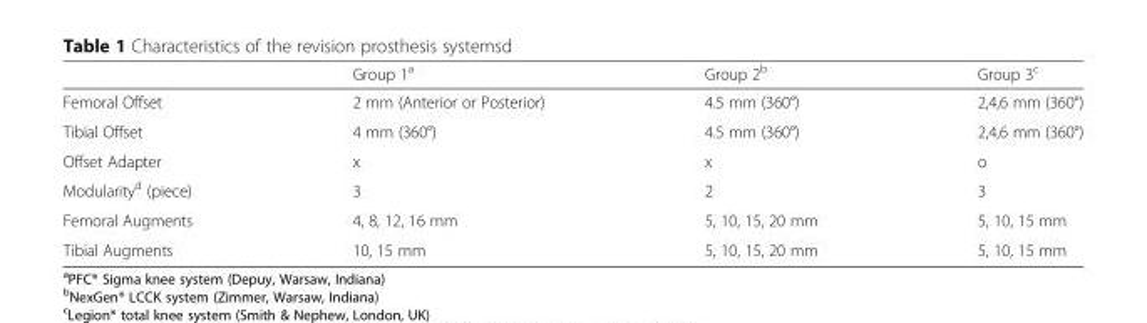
<table><thead><tr><td></td><td>Group 1<sup>a</sup></td><td>Group 2<sup>b</sup></td><td>Group 3<sup>c</sup></td></tr></thead><tbody><tr><td>Femoral Offset</td><td>2 mm (Anterior or Posterior)</td><td>4.5 mm (360°)</td><td>2,4,6 mm (360°)</td></tr><tr><td>Tibial Offset</td><td>4 mm (360°)</td><td>4.5 mm (360°)</td><td>2,4,6 mm (360°)</td></tr><tr><td>Offset Adapter</td><td>x</td><td>x</td><td>o</td></tr><tr><td>Modularity<sup>d</sup> (piece)</td><td>3</td><td>2</td><td>3</td></tr><tr><td>Femoral Augments</td><td>4, 8, 12, 16 mm</td><td>5, 10, 15, 20 mm</td><td>5, 10, 15 mm</td></tr><tr><td>Tibial Augments</td><td>10, 15 mm</td><td>5, 10, 15, 20 mm</td><td>5, 10, 15 mm</td></tr></tbody></table>